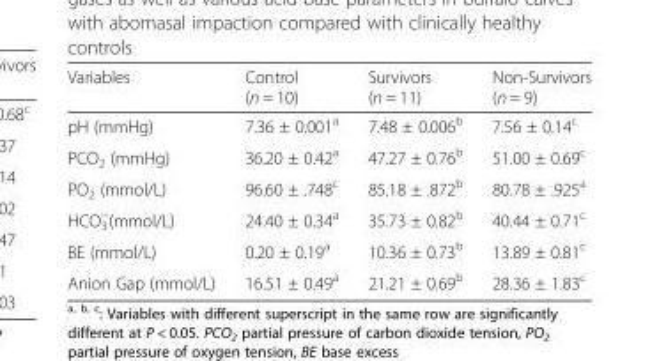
<table><thead><tr><td>Variables</td><td>Control (n = 10)</td><td>Survivors (n = 11)</td><td>Non-Survivors (n = 9)</td></tr></thead><tbody><tr><td>pH (mmHg)</td><td>7.36 ± 0.001<sup>a</sup></td><td>7.48 ± 0.006<sup>b</sup></td><td>7.56 ± 0.14<sup>c</sup></td></tr><tr><td>PCO<sub>2</sub> (mmHg)</td><td>36.20 ± 0.42<sup>a</sup></td><td>47.27 ± 0.76<sup>b</sup></td><td>51.00 ± 0.69<sup>c</sup></td></tr><tr><td>PO<sub>2</sub> (mmol/L)</td><td>96.60 ± .748<sup>c</sup></td><td>85.18 ± .872<sup>b</sup></td><td>80.78 ± .925<sup>a</sup></td></tr><tr><td>HCO<sub>3</sub> <sup>−</sup>(mmol/L)</td><td>24.40 ± 0.34<sup>a</sup></td><td>35.73 ± 0.82<sup>b</sup></td><td>40.44 ± 0.71<sup>c</sup></td></tr><tr><td>BE (mmol/L)</td><td>0.20 ± 0.19<sup>a</sup></td><td>10.36 ± 0.73<sup>b</sup></td><td>13.89 ± 0.81<sup>c</sup></td></tr><tr><td>Anion Gap (mmol/L)</td><td>16.51 ± 0.49<sup>a</sup></td><td>21.21 ± 0.69<sup>b</sup></td><td>28.36 ± 1.83<sup>c</sup></td></tr></tbody></table>